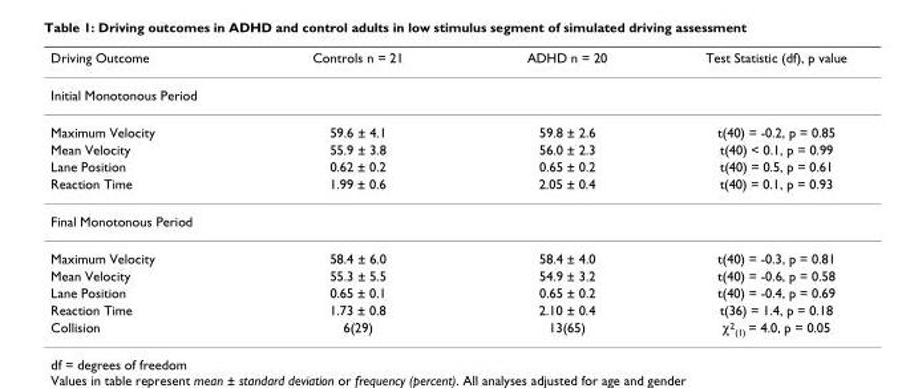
<table><thead><tr><td>Driving Outcome</td><td>Controls n = 21</td><td>ADHD n = 20</td><td>Test Statistic (df), p value</td></tr></thead><tbody><tr><td colspan="4">Initial Monotonous Period</td></tr><tr><td>Maximum Velocity</td><td>59.6 ± 4.1</td><td>59.8 ± 2.6</td><td>t(40) = -0.2, p = 0.85</td></tr><tr><td>Mean Velocity</td><td>55.9 ± 3.8</td><td>56.0 ± 2.3</td><td>t(40) &lt; 0.1, p = 0.99</td></tr><tr><td>Lane Position</td><td>0.62 ± 0.2</td><td>0.65 ± 0.2</td><td>t(40) = 0.5, p = 0.61</td></tr><tr><td>Reaction Time</td><td>1.99 ± 0.6</td><td>2.05 ± 0.4</td><td>t(40) = 0.1, p = 0.93</td></tr><tr><td colspan="4">Final Monotonous Period</td></tr><tr><td>Maximum Velocity</td><td>58.4 ± 6.0</td><td>58.4 ± 4.0</td><td>t(40) = -0.3, p = 0.81</td></tr><tr><td>Mean Velocity</td><td>55.3 ± 5.5</td><td>54.9 ± 3.2</td><td>t(40) = -0.6, p = 0.58</td></tr><tr><td>Lane Position</td><td>0.65 ± 0.1</td><td>0.65 ± 0.2</td><td>t(40) = -0.4, p = 0.69</td></tr><tr><td>Reaction Time</td><td>1.73 ± 0.8</td><td>2.10 ± 0.4</td><td>t(36) = 1.4, p = 0.18</td></tr><tr><td>Collision</td><td>6(29)</td><td>13(65)</td><td>χ<sup>2</sup><sub>(1)</sub> = 4.0, p = 0.05</td></tr></tbody></table>